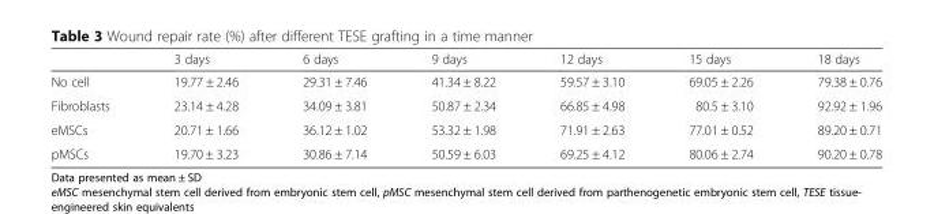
<table><thead><tr><td></td><td>3 days</td><td>6 days</td><td>9 days</td><td>12 days</td><td>15 days</td><td>18 days</td></tr></thead><tbody><tr><td>No cell</td><td>19.77 ± 2.46</td><td>29.31 ± 7.46</td><td>41.34 ± 8.22</td><td>59.57 ± 3.10</td><td>69.05 ± 2.26</td><td>79.38 ± 0.76</td></tr><tr><td>Fibroblasts</td><td>23.14 ± 4.28</td><td>34.09 ± 3.81</td><td>50.87 ± 2.34</td><td>66.85 ± 4.98</td><td>80.5 ± 3.10</td><td>92.92 ± 1.96</td></tr><tr><td>eMSCs</td><td>20.71 ± 1.66</td><td>36.12 ± 1.02</td><td>53.32 ± 1.98</td><td>71.91 ± 2.63</td><td>77.01 ± 0.52</td><td>89.20 ± 0.71</td></tr><tr><td>pMSCs</td><td>19.70 ± 3.23</td><td>30.86 ± 7.14</td><td>50.59 ± 6.03</td><td>69.25 ± 4.12</td><td>80.06 ± 2.74</td><td>90.20 ± 0.78</td></tr></tbody></table>